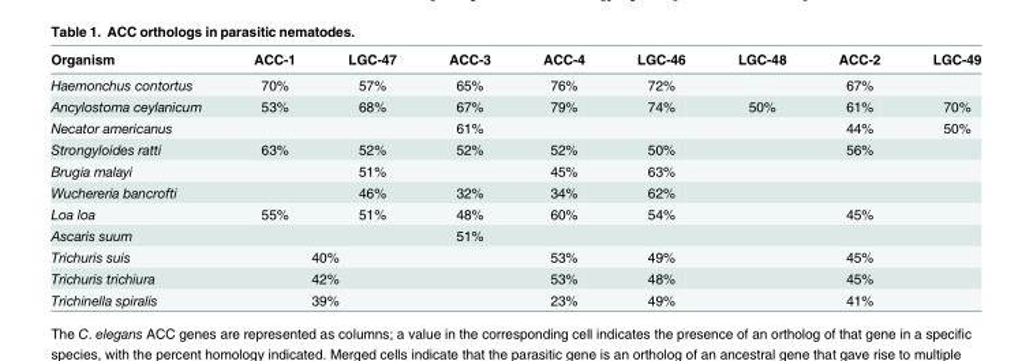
<table><thead><tr><td>Organism</td><td>ACC-1</td><td>LGC-47</td><td>ACC-3</td><td>ACC-4</td><td>LGC-46</td><td>LGC-48</td><td>ACC-2</td><td>LGC-49</td></tr></thead><tbody><tr><td>Haemonchus contortus</td><td>70%</td><td>57%</td><td>65%</td><td>76%</td><td>72%</td><td></td><td>67%</td><td></td></tr><tr><td>Ancylostoma ceylanicum</td><td>53%</td><td>68%</td><td>67%</td><td>79%</td><td>74%</td><td>50%</td><td>61%</td><td>70%</td></tr><tr><td>Necator americanus</td><td colspan="2"></td><td>61%</td><td></td><td></td><td></td><td>44%</td><td>50%</td></tr><tr><td>Strongyloides ratti</td><td>63%</td><td>52%</td><td>52%</td><td>52%</td><td>50%</td><td colspan="3">56%</td></tr><tr><td>Brugia malayi</td><td></td><td>51%</td><td></td><td>45%</td><td>63%</td><td colspan="3"></td></tr><tr><td>Wuchereria bancrofti</td><td></td><td>46%</td><td>32%</td><td>34%</td><td>62%</td><td colspan="3"></td></tr><tr><td>Loa loa</td><td>55%</td><td>51%</td><td>48%</td><td>60%</td><td>54%</td><td colspan="3">45%</td></tr><tr><td>Ascaris suum</td><td colspan="2"></td><td>51%</td><td colspan="5"></td></tr><tr><td>Trichuris suis</td><td colspan="2">40%</td><td></td><td>53%</td><td>49%</td><td colspan="3">45%</td></tr><tr><td>Trichuris trichiura</td><td colspan="2">42%</td><td></td><td>53%</td><td>48%</td><td colspan="3">45%</td></tr><tr><td>Trichinella spiralis</td><td colspan="2">39%</td><td></td><td>23%</td><td>49%</td><td colspan="3">41%</td></tr></tbody></table>